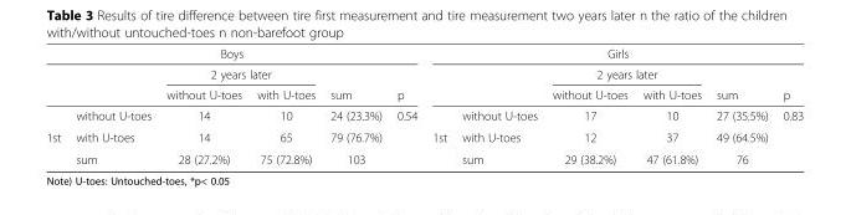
<table><thead><tr><td colspan="6">Boys</td><td colspan="6">Girls</td></tr><tr><td rowspan="2"></td><td rowspan="2"></td><td colspan="2">2 years later</td><td rowspan="2">sum</td><td rowspan="2">p</td><td rowspan="2"></td><td rowspan="2"></td><td colspan="2">2 years later</td><td rowspan="2">sum</td><td rowspan="2">p</td></tr><tr><td>without U-toes</td><td>with U-toes</td><td>without U-toes</td><td>with U-toes</td></tr></thead><tbody><tr><td rowspan="3">1st</td><td>without U-toes</td><td>14</td><td>10</td><td>24 (23.3%)</td><td>0.54</td><td rowspan="3">1st</td><td>without U-toes</td><td>17</td><td>10</td><td>27 (35.5%)</td><td rowspan="2">0.83</td></tr><tr><td>with U-toes</td><td>14</td><td>65</td><td>79 (76.7%)</td><td></td><td>with U-toes</td><td>12</td><td>37</td><td>49 (64.5%)</td></tr><tr><td>sum</td><td>28 (27.2%)</td><td>75 (72.8%)</td><td>103</td><td></td><td>sum</td><td>29 (38.2%)</td><td>47 (61.8%)</td><td>76</td><td></td></tr></tbody></table>